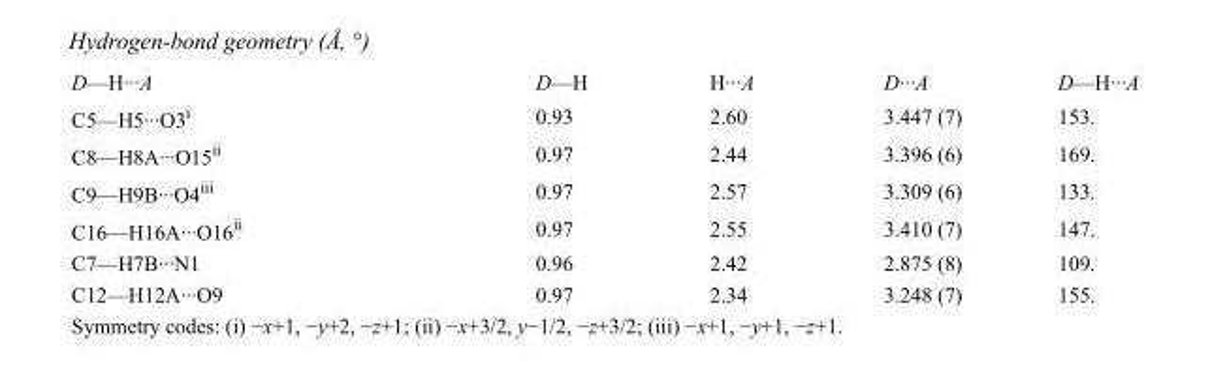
<table><tbody><tr><td>D—H···A</td><td>D—H</td><td>H···A</td><td>D···A</td><td>D—H···A</td></tr><tr><td>C5—H5···O3<sup>i</sup></td><td>0.93</td><td>2.60</td><td>3.447 (7)</td><td>153.</td></tr><tr><td>C8—H8A···O15<sup>ii</sup></td><td>0.97</td><td>2.44</td><td>3.396 (6)</td><td>169.</td></tr><tr><td>C9—H9B···O4<sup>iii</sup></td><td>0.97</td><td>2.57</td><td>3.309 (6)</td><td>133.</td></tr><tr><td>C16—H16A···O16<sup>ii</sup></td><td>0.97</td><td>2.55</td><td>3.410 (7)</td><td>147.</td></tr><tr><td>C7—H7B···N1</td><td>0.96</td><td>2.42</td><td>2.875 (8)</td><td>109.</td></tr><tr><td>C12—H12A···O9</td><td>0.97</td><td>2.34</td><td>3.248 (7)</td><td>155.</td></tr></tbody></table>